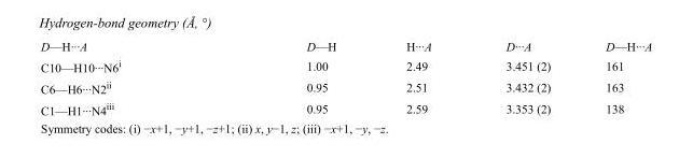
<table><tbody><tr><td>D—H···A</td><td>D—H</td><td>H···A</td><td>D···A</td><td>D—H···A</td></tr><tr><td>C10—H10···N6<sup>i</sup></td><td>1.00</td><td>2.49</td><td>3.451 (2)</td><td>161</td></tr><tr><td>C6—H6···N2<sup>ii</sup></td><td>0.95</td><td>2.51</td><td>3.432 (2)</td><td>163</td></tr><tr><td>C1—H1···N4<sup>iii</sup></td><td>0.95</td><td>2.59</td><td>3.353 (2)</td><td>138</td></tr></tbody></table>